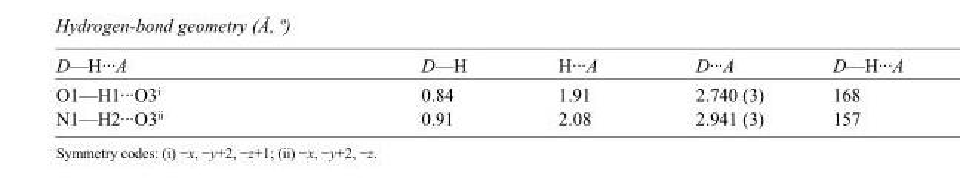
<table><tbody><tr><td>D—H···A</td><td>D—H</td><td>H···A</td><td>D···A</td><td>D—H···A</td></tr><tr><td>O1—H1···O3<sup>i</sup></td><td>0.84</td><td>1.91</td><td>2.740 (3)</td><td>168</td></tr><tr><td>N1—H2···O3<sup>ii</sup></td><td>0.91</td><td>2.08</td><td>2.941 (3)</td><td>157</td></tr></tbody></table>